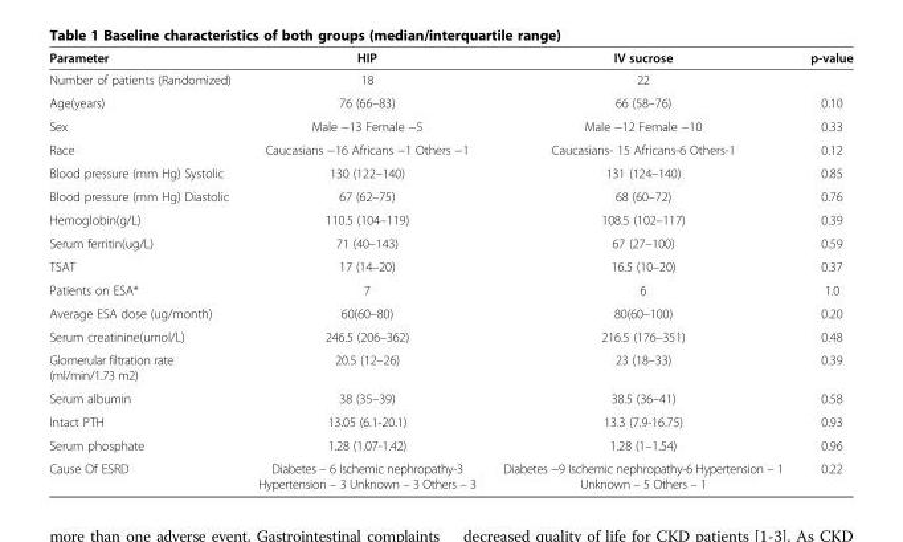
<table><thead><tr><td>Parameter</td><td>HIP</td><td>IV sucrose</td><td>p-value</td></tr></thead><tbody><tr><td>Number of patients (Randomized)</td><td>18</td><td>22</td><td></td></tr><tr><td>Age(years)</td><td>76 (66–83)</td><td>66 (58–76)</td><td>0.10</td></tr><tr><td>Sex</td><td>Male −13 Female −5</td><td>Male −12 Female −10</td><td>0.33</td></tr><tr><td>Race</td><td>Caucasians −16 Africans −1 Others −1</td><td>Caucasians- 15 Africans-6 Others-1</td><td>0.12</td></tr><tr><td>Blood pressure (mm Hg) Systolic</td><td>130 (122–140)</td><td>131 (124–140)</td><td>0.85</td></tr><tr><td>Blood pressure (mm Hg) Diastolic</td><td>67 (62–75)</td><td>68 (60–72)</td><td>0.76</td></tr><tr><td>Hemoglobin(g/L)</td><td>110.5 (104–119)</td><td>108.5 (102–117)</td><td>0.39</td></tr><tr><td>Serum ferritin(ug/L)</td><td>71 (40–143)</td><td>67 (27–100)</td><td>0.59</td></tr><tr><td>TSAT</td><td>17 (14–20)</td><td>16.5 (10–20)</td><td>0.37</td></tr><tr><td>Patients on ESA*</td><td>7</td><td>6</td><td>1.0</td></tr><tr><td>Average ESA dose (ug/month)</td><td>60(60–80)</td><td>80(60–100)</td><td>0.20</td></tr><tr><td>Serum creatinine(umol/L)</td><td>246.5 (206–362)</td><td>216.5 (176–351)</td><td>0.48</td></tr><tr><td>Glomerular filtration rate (ml/min/1.73 m2)</td><td>20.5 (12–26)</td><td>23 (18–33)</td><td>0.39</td></tr><tr><td>Serum albumin</td><td>38 (35–39)</td><td>38.5 (36–41)</td><td>0.58</td></tr><tr><td>Intact PTH</td><td>13.05 (6.1-20.1)</td><td>13.3 (7.9-16.75)</td><td>0.93</td></tr><tr><td>Serum phosphate</td><td>1.28 (1.07-1.42)</td><td>1.28 (1–1.54)</td><td>0.96</td></tr><tr><td>Cause Of ESRD</td><td>Diabetes – 6 Ischemic nephropathy-3 Hypertension – 3 Unknown – 3 Others – 3</td><td>Diabetes −9 Ischemic nephropathy-6 Hypertension – 1 Unknown – 5 Others – 1</td><td>0.22</td></tr></tbody></table>